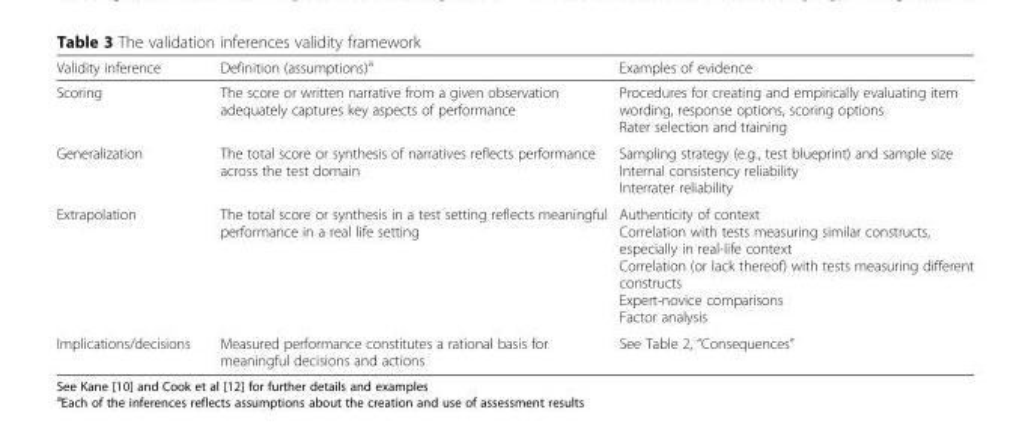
<table><thead><tr><td>Validity inference</td><td>Definition (assumptions)<sup>a</sup></td><td>Examples of evidence</td></tr></thead><tbody><tr><td>Scoring</td><td>The score or written narrative from a given observation adequately captures key aspects of performance</td><td>Procedures for creating and empirically evaluating item wording, response options, scoring options Rater selection and training</td></tr><tr><td>Generalization</td><td>The total score or synthesis of narratives reflects performance across the test domain</td><td>Sampling strategy (e.g., test blueprint) and sample size Internal consistency reliability Interrater reliability</td></tr><tr><td>Extrapolation</td><td>The total score or synthesis in a test setting reflects meaningful performance in a real life setting</td><td>Authenticity of context Correlation with tests measuring similar constructs, especially in real-life context Correlation (or lack thereof) with tests measuring different constructs Expert-novice comparisons Factor analysis</td></tr><tr><td>Implications/decisions</td><td>Measured performance constitutes a rational basis for meaningful decisions and actions</td><td>See Table 2, “Consequences”</td></tr></tbody></table>